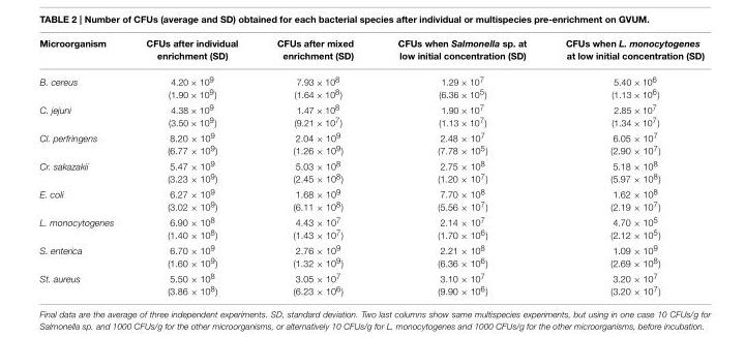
<table><thead><tr><td>Microorganism</td><td>CFUs after individual enrichment (SD)</td><td>CFUs after mixed enrichment (SD)</td><td>CFUs when Salmonella sp. at low initial concentration (SD)</td><td>CFUs when L. monocytogenes at low initial concentration (SD)</td></tr></thead><tbody><tr><td>B. cereus</td><td>4.20 × 10<sup>9</sup> (1.90 × 10<sup>9</sup>)</td><td>7.93 × 10<sup>8</sup> (1.64 × 10<sup>8</sup>)</td><td>1.29 × 10<sup>7</sup> (6.36 × 10<sup>5</sup>)</td><td>5.40 × 10<sup>6</sup> (1.13 × 10<sup>6</sup>)</td></tr><tr><td>C. jejuni</td><td>4.38 × 10<sup>9</sup> (3.50 × 10<sup>9</sup>)</td><td>1.47 × 10<sup>8</sup> (9.21 × 10<sup>7</sup>)</td><td>1.90 × 10<sup>7</sup> (1.13 × 10<sup>7</sup>)</td><td>2.85 × 10<sup>7</sup> (1.34 × 10<sup>7</sup>)</td></tr><tr><td>Cl. perfringens</td><td>8.20 × 10<sup>9</sup> (6.77 × 10<sup>9</sup>)</td><td>2.04 × 10<sup>9</sup> (1.26 × 10<sup>9</sup>)</td><td>2.48 × 10<sup>7</sup> (7.78 × 10<sup>5</sup>)</td><td>6.05 × 10<sup>7</sup> (2.90 × 10<sup>7</sup>)</td></tr><tr><td>Cr. sakazakii</td><td>5.47 × 10<sup>9</sup> (3.23 × 10<sup>9</sup>)</td><td>5.03 × 10<sup>8</sup> (2.45 × 10<sup>8</sup>)</td><td>2.75 × 10<sup>8</sup> (1.20 × 10<sup>7</sup>)</td><td>5.18 × 10<sup>8</sup> (5.97 × 10<sup>8</sup>)</td></tr><tr><td>E. coli</td><td>6.27 × 10<sup>9</sup> (3.02 × 10<sup>9</sup>)</td><td>1.68 × 10<sup>9</sup> (6.11 × 10<sup>8</sup>)</td><td>7.70 × 10<sup>8</sup> (5.56 × 10<sup>7</sup>)</td><td>1.62 × 10<sup>8</sup> (2.19 × 10<sup>7</sup>)</td></tr><tr><td>L. monocytogenes</td><td>6.90 × 10<sup>8</sup> (1.40 × 10<sup>8</sup>)</td><td>4.43 × 10<sup>7</sup> (1.43 × 10<sup>7</sup>)</td><td>2.14 × 10<sup>7</sup> (1.70 × 10<sup>6</sup>)</td><td>4.70 × 10<sup>5</sup> (2.12 × 10<sup>5</sup>)</td></tr><tr><td>S. enterica</td><td>6.70 × 10<sup>9</sup> (1.60 × 10<sup>9</sup>)</td><td>2.76 × 10<sup>9</sup> (1.32 × 10<sup>9</sup>)</td><td>2.21 × 10<sup>8</sup> (6.36 × 10<sup>6</sup>)</td><td>1.09 × 10<sup>9</sup> (2.69 × 10<sup>8</sup>)</td></tr><tr><td>St. aureus</td><td>5.50 × 10<sup>8</sup> (3.86 × 10<sup>8</sup>)</td><td>3.05 × 10<sup>7</sup> (6.23 × 10<sup>6</sup>)</td><td>3.10 × 10<sup>7</sup> (9.90 × 10<sup>6</sup>)</td><td>3.20 × 10<sup>7</sup> (3.20 × 10<sup>7</sup>)</td></tr></tbody></table>